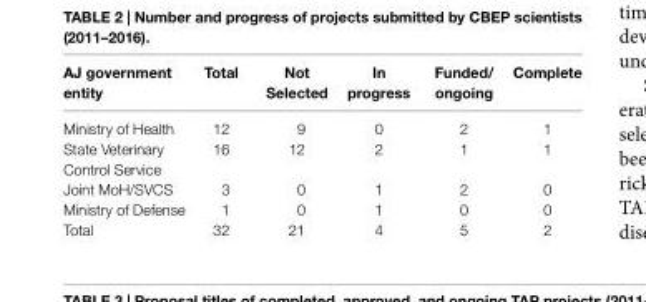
<table><thead><tr><td>AJ government entity</td><td>Total</td><td>Not Selected</td><td>in progress</td><td>Funded/ ongoing</td><td>Complete</td></tr></thead><tbody><tr><td>Ministry of Health</td><td>12</td><td>9</td><td>0</td><td>2</td><td>1</td></tr><tr><td>State Veterinary Control Service</td><td>16</td><td>12</td><td>2</td><td>1</td><td>1</td></tr><tr><td>Joint MoH/SVCS</td><td>3</td><td>0</td><td>1</td><td>2</td><td>0</td></tr><tr><td>Ministry of Defense</td><td>1</td><td>0</td><td>1</td><td>0</td><td>0</td></tr><tr><td>Total</td><td>32</td><td>21</td><td>4</td><td>5</td><td>2</td></tr></tbody></table>